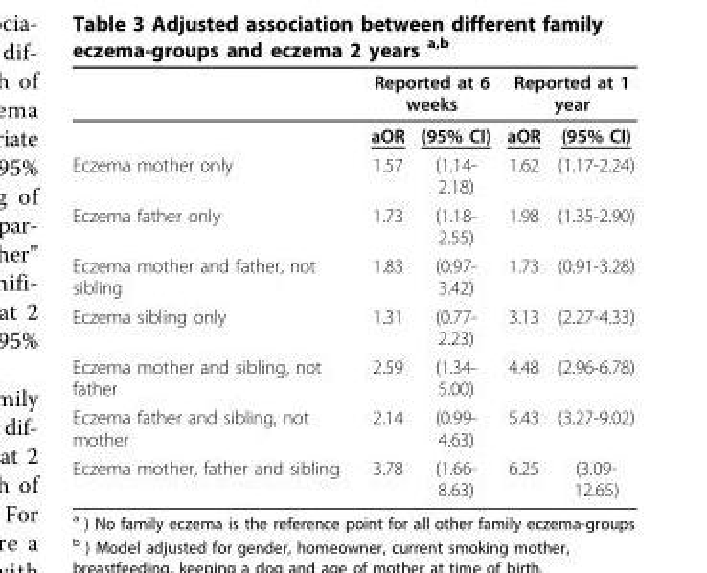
<table><thead><tr><td rowspan="2"></td><td colspan="2">Reported at 6 weeks</td><td colspan="2">Reported at 1 year</td></tr><tr><td>aOR</td><td>(95% CI)</td><td>aOR</td><td>(95% CI)</td></tr></thead><tbody><tr><td>Eczema mother only</td><td>1.57</td><td>(1.14- 2.18)</td><td>1.62</td><td>(1.17-2.24)</td></tr><tr><td>Eczema father only</td><td>1.73</td><td>(1.18- 2.55)</td><td>1.98</td><td>(1.35-2.90)</td></tr><tr><td>Eczema mother and father, not sibling</td><td>1.83</td><td>(0.97- 3.42)</td><td>1.73</td><td>(0.91-3.28)</td></tr><tr><td>Eczema sibling only</td><td>1.31</td><td>(0.77- 2.23)</td><td>3.13</td><td>(2.27-4.33)</td></tr><tr><td>Eczema mother and sibling, not father</td><td>2.59</td><td>(1.34- 5.00)</td><td>4.48</td><td>(2.96-6.78)</td></tr><tr><td>Eczema father and sibling, not mother</td><td>2.14</td><td>(0.99- 4.63)</td><td>5.43</td><td>(3.27-9.02)</td></tr><tr><td>Eczema mother, father and sibling</td><td>3.78</td><td>(1.66- 8.63)</td><td>6.25</td><td>(3.09- 12.65)</td></tr></tbody></table>